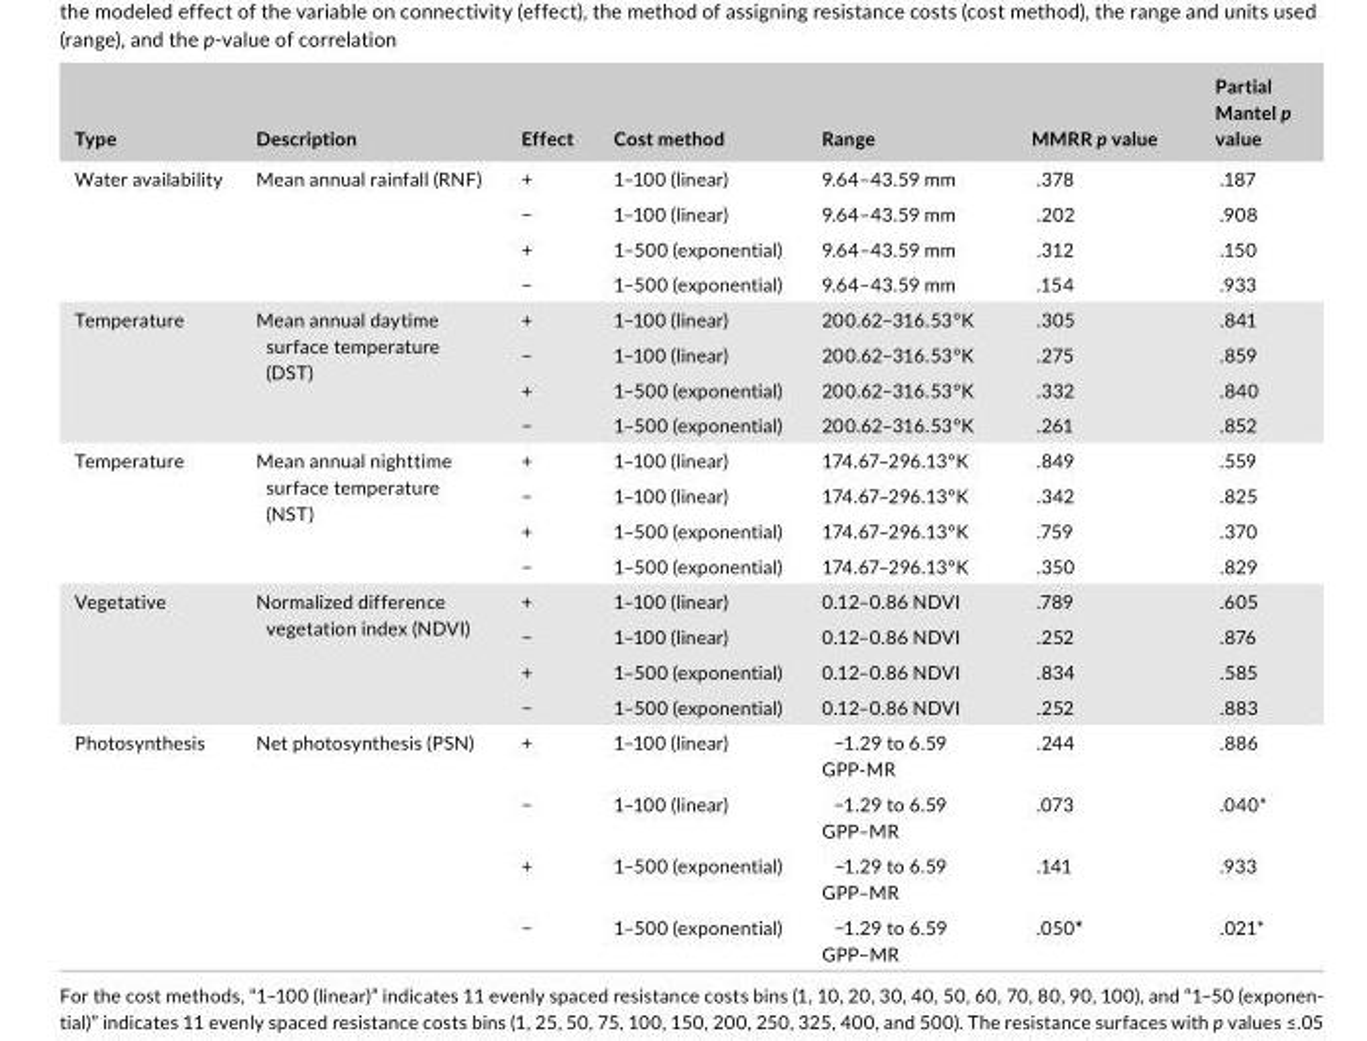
<table><thead><tr><td>Type</td><td>Description</td><td>Effect</td><td>Cost method</td><td>Range</td><td>MMRR p value</td><td>Partial Mantel p value</td></tr></thead><tbody><tr><td rowspan="4">Water availability</td><td rowspan="4">Mean annual rainfall (RNF)</td><td>+</td><td>1–100 (linear)</td><td>9.64–43.59 mm</td><td>.378</td><td>.187</td></tr><tr><td>−</td><td>1–100 (linear)</td><td>9.64–43.59 mm</td><td>.202</td><td>.908</td></tr><tr><td>+</td><td>1–500 (exponential)</td><td>9.64–43.59 mm</td><td>.312</td><td>.150</td></tr><tr><td>−</td><td>1–500 (exponential)</td><td>9.64–43.59 mm</td><td>.154</td><td>.933</td></tr><tr><td rowspan="4">Temperature</td><td rowspan="4">Mean annual daytime surface temperature (DST)</td><td>+</td><td>1–100 (linear)</td><td>200.62–316.53°K</td><td>.305</td><td>.841</td></tr><tr><td>−</td><td>1–100 (linear)</td><td>200.62–316.53°K</td><td>.275</td><td>.859</td></tr><tr><td>+</td><td>1–500 (exponential)</td><td>200.62–316.53°K</td><td>.332</td><td>.840</td></tr><tr><td>−</td><td>1–500 (exponential)</td><td>200.62–316.53°K</td><td>.261</td><td>.852</td></tr><tr><td rowspan="4">Temperature</td><td rowspan="4">Mean annual nighttime surface temperature (NST)</td><td>+</td><td>1–100 (linear)</td><td>174.67–296.13°K</td><td>.849</td><td>.559</td></tr><tr><td>−</td><td>1–100 (linear)</td><td>174.67–296.13°K</td><td>.342</td><td>.825</td></tr><tr><td>+</td><td>1–500 (exponential)</td><td>174.67–296.13°K</td><td>.759</td><td>.370</td></tr><tr><td>−</td><td>1–500 (exponential)</td><td>174.67–296.13°K</td><td>.350</td><td>.829</td></tr><tr><td rowspan="4">Vegetative</td><td rowspan="4">Normalized difference vegetation index (NDVI)</td><td>+</td><td>1–100 (linear)</td><td>0.12–0.86 NDVI</td><td>.789</td><td>.605</td></tr><tr><td>−</td><td>1–100 (linear)</td><td>0.12–0.86 NDVI</td><td>.252</td><td>.876</td></tr><tr><td>+</td><td>1–500 (exponential)</td><td>0.12–0.86 NDVI</td><td>.834</td><td>.585</td></tr><tr><td>−</td><td>1–500 (exponential)</td><td>0.12–0.86 NDVI</td><td>.252</td><td>.883</td></tr><tr><td rowspan="4">Photosynthesis</td><td rowspan="4">Net photosynthesis (PSN)</td><td>+</td><td>1–100 (linear)</td><td>−1.29 to 6.59 GPP- MR</td><td>.244</td><td>.886</td></tr><tr><td>−</td><td>1–100 (linear)</td><td>−1.29 to 6.59 GPP–MR</td><td>.073</td><td>.040*</td></tr><tr><td>+</td><td>1–500 (exponential)</td><td>−1.29 to 6.59 GPP–MR</td><td>.141</td><td>.933</td></tr><tr><td>−</td><td>1–500 (exponential)</td><td>−1.29 to 6.59 GPP–MR</td><td>.050*</td><td>.021*</td></tr></tbody></table>